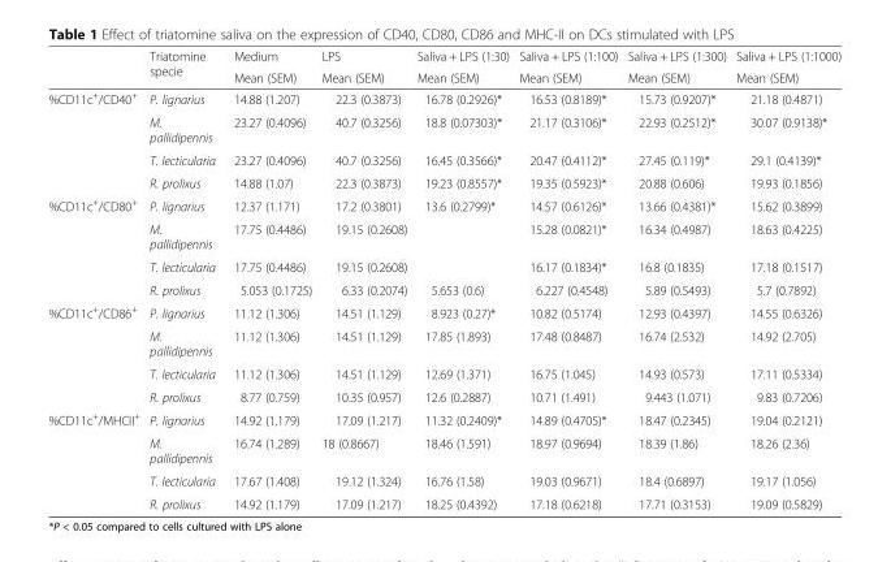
<table><thead><tr><td rowspan="2"></td><td rowspan="2">Triatomine specie</td><td rowspan="2">Medium Mean (SEM)</td><td rowspan="2">LPS Mean (SEM)</td><td rowspan="2">Saliva + LPS (1:30) Mean (SEM)</td><td rowspan="2">Saliva + LPS (1:100) Mean (SEM)</td><td rowspan="2">Saliva + LPS (1:300) Mean (SEM)</td><td rowspan="2">Saliva + LPS (1:1000) Mean (SEM)</td></tr><tr></tr></thead><tbody><tr><td rowspan="4">%CD11c<sup>+</sup>/CD40<sup>+</sup></td><td>P. lignarius</td><td>14.88 (1.207)</td><td>22.3 (0.3873)</td><td>16.78 (0.2926)*</td><td>16.53 (0.8189)*</td><td>15.73 (0.9207)*</td><td>21.18 (0.4871)</td></tr><tr><td>M. pallidipennis</td><td>23.27 (0.4096)</td><td>40.7 (0.3256)</td><td>18.8 (0.07303)*</td><td>21.17 (0.3106)*</td><td>22.93 (0.2512)*</td><td>30.07 (0.9138)*</td></tr><tr><td>T. lecticularia</td><td>23.27 (0.4096)</td><td>40.7 (0.3256)</td><td>16.45 (0.3566)*</td><td>20.47 (0.4112)*</td><td>27.45 (0.119)*</td><td>29.1 (0.4139)*</td></tr><tr><td>R. prolixus</td><td>14.88 (1.07)</td><td>22.3 (0.3873)</td><td>19.23 (0.8557)*</td><td>19.35 (0.5923)*</td><td>20.88 (0.606)</td><td>19.93 (0.1856)</td></tr><tr><td rowspan="4">%CD11c<sup>+</sup>/CD80<sup>+</sup></td><td>P. lignarius</td><td>12.37 (1.171)</td><td>17.2 (0.3801)</td><td>13.6 (0.2799)*</td><td>14.57 (0.6126)*</td><td>13.66 (0.4381)*</td><td>15.62 (0.3899)</td></tr><tr><td>M. pallidipennis</td><td>17.75 (0.4486)</td><td>19.15 (0.2608)</td><td></td><td>15.28 (0.0821)*</td><td>16.34 (0.4987)</td><td>18.63 (0.4225)</td></tr><tr><td>T. lecticularia</td><td>17.75 (0.4486)</td><td>19.15 (0.2608)</td><td></td><td>16.17 (0.1834)*</td><td>16.8 (0.1835)</td><td>17.18 (0.1517)</td></tr><tr><td>R. prolixus</td><td>5.053 (0.1725)</td><td>6.33 (0.2074)</td><td>5.653 (0.6)</td><td>6.227 (0.4548)</td><td>5.89 (0.5493)</td><td>5.7 (0.7892)</td></tr><tr><td rowspan="4">%CD11c<sup>+</sup>/CD86<sup>+</sup></td><td>P. lignarius</td><td>11.12 (1.306)</td><td>14.51 (1.129)</td><td>8.923 (0.27)*</td><td>10.82 (0.5174)</td><td>12.93 (0.4397)</td><td>14.55 (0.6326)</td></tr><tr><td>M. pallidipennis</td><td>11.12 (1.306)</td><td>14.51 (1.129)</td><td>17.85 (1.893)</td><td>17.48 (0.8487)</td><td>16.74 (2.532)</td><td>14.92 (2.705)</td></tr><tr><td>T. lecticularia</td><td>11.12 (1.306)</td><td>14.51 (1.129)</td><td>12.69 (1.371)</td><td>16.75 (1.045)</td><td>14.93 (0.573)</td><td>17.11 (0.5334)</td></tr><tr><td>R. prolixus</td><td>8.77 (0.759)</td><td>10.35 (0.957)</td><td>12.6 (0.2887)</td><td>10.71 (1.491)</td><td>9.443 (1.071)</td><td>9.83 (0.7206)</td></tr><tr><td rowspan="4">%CD11c<sup>+</sup>/MHCII<sup>+</sup></td><td>P. lignarius</td><td>14.92 (1.179)</td><td>17.09 (1.217)</td><td>11.32 (0.2409)*</td><td>14.89 (0.4705)*</td><td>18.47 (0.2345)</td><td>19.04 (0.2121)</td></tr><tr><td>M. pallidipennis</td><td>16.74 (1.289)</td><td>18 (0.8667)</td><td>18.46 (1.591)</td><td>18.97 (0.9694)</td><td>18.39 (1.86)</td><td>18.26 (2.36)</td></tr><tr><td>T. lecticularia</td><td>17.67 (1.408)</td><td>19.12 (1.324)</td><td>16.76 (1.58)</td><td>19.03 (0.9671)</td><td>18.4 (0.6897)</td><td>19.17 (1.056)</td></tr><tr><td>R. prolixus</td><td>14.92 (1.179)</td><td>17.09 (1.217)</td><td>18.25 (0.4392)</td><td>17.18 (0.6218)</td><td>17.71 (0.3153)</td><td>19.09 (0.5829)</td></tr></tbody></table>